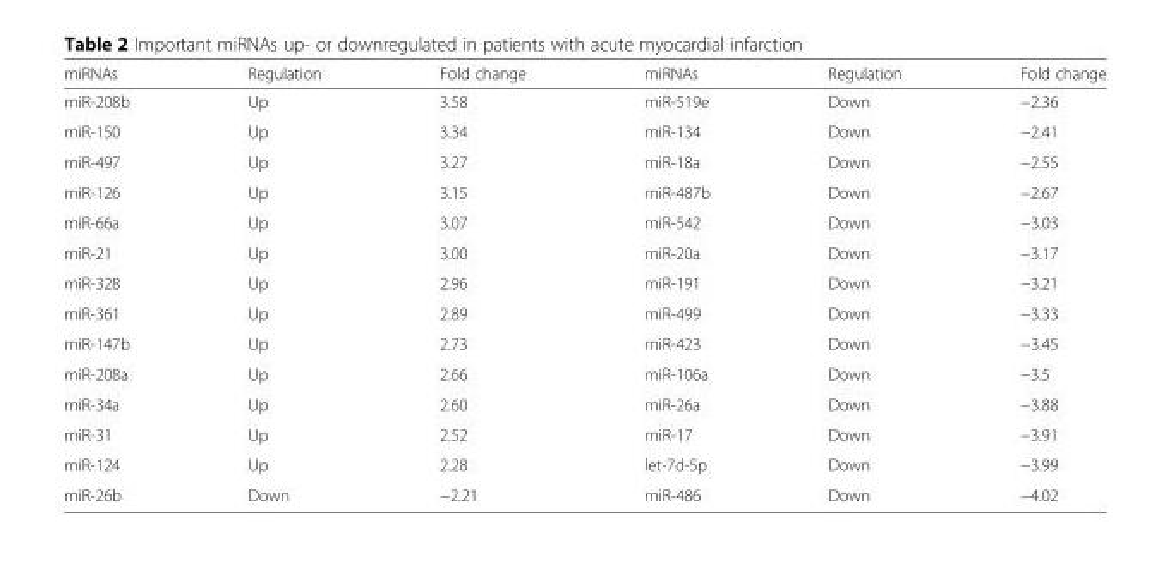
<table><thead><tr><td>miRNAs</td><td>Regulation</td><td>Fold change</td><td>miRNAs</td><td>Regulation</td><td>Fold change</td></tr></thead><tbody><tr><td>miR-208b</td><td>Up</td><td>3.58</td><td>miR-519e</td><td>Down</td><td>−2.36</td></tr><tr><td>miR-150</td><td>Up</td><td>3.34</td><td>miR-134</td><td>Down</td><td>−2.41</td></tr><tr><td>miR-497</td><td>Up</td><td>3.27</td><td>miR-18a</td><td>Down</td><td>−2.55</td></tr><tr><td>miR-126</td><td>Up</td><td>3.15</td><td>miR-487b</td><td>Down</td><td>−2.67</td></tr><tr><td>miR-66a</td><td>Up</td><td>3.07</td><td>miR-542</td><td>Down</td><td>−3.03</td></tr><tr><td>miR-21</td><td>Up</td><td>3.00</td><td>miR-20a</td><td>Down</td><td>−3.17</td></tr><tr><td>miR-328</td><td>Up</td><td>2.96</td><td>miR-191</td><td>Down</td><td>−3.21</td></tr><tr><td>miR-361</td><td>Up</td><td>2.89</td><td>miR-499</td><td>Down</td><td>−3.33</td></tr><tr><td>miR-147b</td><td>Up</td><td>2.73</td><td>miR-423</td><td>Down</td><td>−3.45</td></tr><tr><td>miR-208a</td><td>Up</td><td>2.66</td><td>miR-106a</td><td>Down</td><td>−3.5</td></tr><tr><td>miR-34a</td><td>Up</td><td>2.60</td><td>miR-26a</td><td>Down</td><td>−3.88</td></tr><tr><td>miR-31</td><td>Up</td><td>2.52</td><td>miR-17</td><td>Down</td><td>−3.91</td></tr><tr><td>miR-124</td><td>Up</td><td>2.28</td><td>let-7d-5p</td><td>Down</td><td>−3.99</td></tr><tr><td>miR-26b</td><td>Down</td><td>−2.21</td><td>miR-486</td><td>Down</td><td>−4.02</td></tr></tbody></table>